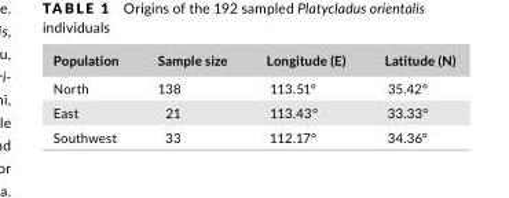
<table><thead><tr><td>Population</td><td>Sample size</td><td>Longitude (E)</td><td>Latitude (N)</td></tr></thead><tbody><tr><td>North</td><td>138</td><td>113.51°</td><td>35.42°</td></tr><tr><td>East</td><td>21</td><td>113.43°</td><td>33.33°</td></tr><tr><td>Southwest</td><td>33</td><td>112.17°</td><td>34.36°</td></tr></tbody></table>